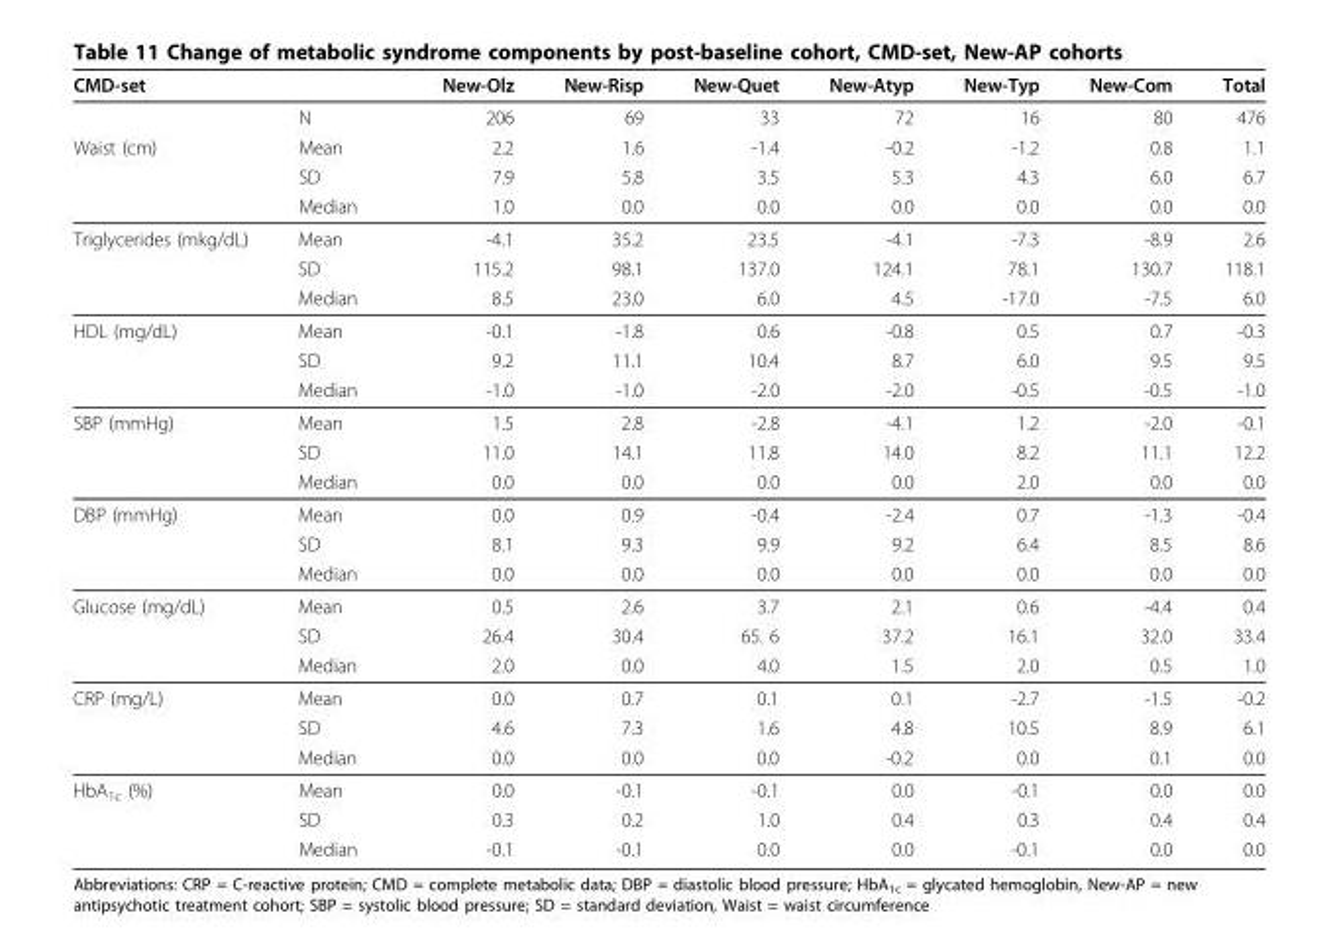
<table><thead><tr><td>CMD-set</td><td></td><td>New-Olz</td><td>New-Risp</td><td>New-Quet</td><td>New-Atyp</td><td>New-Typ</td><td>New-Com</td><td>Total</td></tr></thead><tbody><tr><td></td><td>N</td><td>206</td><td>69</td><td>33</td><td>72</td><td>16</td><td>80</td><td>476</td></tr><tr><td rowspan="3">Waist (cm)</td><td>Mean</td><td>2.2</td><td>1.6</td><td>-1.4</td><td>-0.2</td><td>-1.2</td><td>0.8</td><td>1.1</td></tr><tr><td>SD</td><td>7.9</td><td>5.8</td><td>3.5</td><td>5.3</td><td>4.3</td><td>6.0</td><td>6.7</td></tr><tr><td>Median</td><td>1.0</td><td>0.0</td><td>0.0</td><td>0.0</td><td>0.0</td><td>0.0</td><td>0.0</td></tr><tr><td rowspan="3">Triglycerides (mkg/dL)</td><td>Mean</td><td>-4.1</td><td>35.2</td><td>23.5</td><td>-4.1</td><td>-7.3</td><td>-8.9</td><td>2.6</td></tr><tr><td>SD</td><td>115.2</td><td>98.1</td><td>137.0</td><td>124.1</td><td>78.1</td><td>130.7</td><td>118.1</td></tr><tr><td>Median</td><td>8.5</td><td>23.0</td><td>6.0</td><td>4.5</td><td>-17.0</td><td>-7.5</td><td>6.0</td></tr><tr><td rowspan="3">HDL (mg/dL)</td><td>Mean</td><td>-0.1</td><td>-1.8</td><td>0.6</td><td>-0.8</td><td>0.5</td><td>0.7</td><td>-0.3</td></tr><tr><td>SD</td><td>9.2</td><td>11.1</td><td>10.4</td><td>8.7</td><td>6.0</td><td>9.5</td><td>9.5</td></tr><tr><td>Median</td><td>-1.0</td><td>-1.0</td><td>-2.0</td><td>-2.0</td><td>-0.5</td><td>-0.5</td><td>-1.0</td></tr><tr><td rowspan="3">SBP (mmHg)</td><td>Mean</td><td>1.5</td><td>2.8</td><td>-2.8</td><td>-4.1</td><td>1.2</td><td>-2.0</td><td>-0.1</td></tr><tr><td>SD</td><td>11.0</td><td>14.1</td><td>11.8</td><td>14.0</td><td>8.2</td><td>11.1</td><td>12.2</td></tr><tr><td>Median</td><td>0.0</td><td>0.0</td><td>0.0</td><td>0.0</td><td>2.0</td><td>0.0</td><td>0.0</td></tr><tr><td rowspan="3">DBP (mmHg)</td><td>Mean</td><td>0.0</td><td>0.9</td><td>-0.4</td><td>-2.4</td><td>0.7</td><td>-1.3</td><td>-0.4</td></tr><tr><td>SD</td><td>8.1</td><td>9.3</td><td>9.9</td><td>9.2</td><td>6.4</td><td>8.5</td><td>8.6</td></tr><tr><td>Median</td><td>0.0</td><td>0.0</td><td>0.0</td><td>0.0</td><td>0.0</td><td>0.0</td><td>0.0</td></tr><tr><td rowspan="3">Glucose (mg/dL)</td><td>Mean</td><td>0.5</td><td>2.6</td><td>3.7</td><td>2.1</td><td>0.6</td><td>-4.4</td><td>0.4</td></tr><tr><td>SD</td><td>26.4</td><td>30.4</td><td>65. 6</td><td>37.2</td><td>16.1</td><td>32.0</td><td>33.4</td></tr><tr><td>Median</td><td>2.0</td><td>0.0</td><td>4.0</td><td>1.5</td><td>2.0</td><td>0.5</td><td>1.0</td></tr><tr><td rowspan="3">CRP (mg/L)</td><td>Mean</td><td>0.0</td><td>0.7</td><td>0.1</td><td>0.1</td><td>-2.7</td><td>-1.5</td><td>-0.2</td></tr><tr><td>SD</td><td>4.6</td><td>7.3</td><td>1.6</td><td>4.8</td><td>10.5</td><td>8.9</td><td>6.1</td></tr><tr><td>Median</td><td>0.0</td><td>0.0</td><td>0.0</td><td>-0.2</td><td>0.0</td><td>0.1</td><td>0.0</td></tr><tr><td rowspan="3">HbA<sub>1c</sub> (%)</td><td>Mean</td><td>0.0</td><td>-0.1</td><td>-0.1</td><td>0.0</td><td>-0.1</td><td>0.0</td><td>0.0</td></tr><tr><td>SD</td><td>0.3</td><td>0.2</td><td>1.0</td><td>0.4</td><td>0.3</td><td>0.4</td><td>0.4</td></tr><tr><td>Median</td><td>-0.1</td><td>-0.1</td><td>0.0</td><td>0.0</td><td>-0.1</td><td>0.0</td><td>0.0</td></tr></tbody></table>